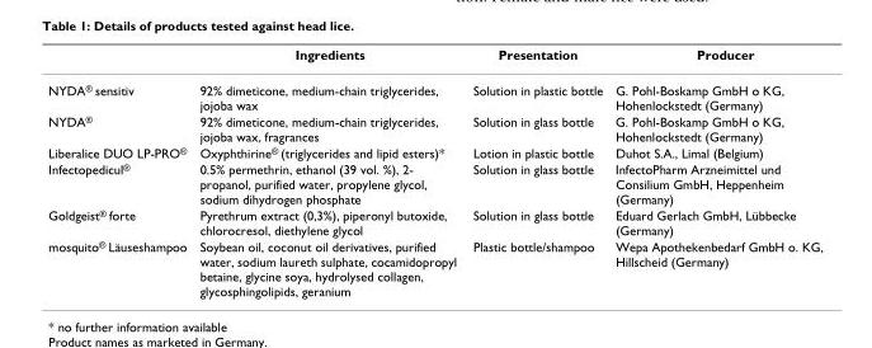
<table><thead><tr><td></td><td>Ingredients</td><td>Presentation</td><td>Producer</td></tr></thead><tbody><tr><td>NYDA<sup>®</sup> sensitiv</td><td>92% dimeticone, medium-chain triglycerides, jojoba wax</td><td>Solution in plastic bottle</td><td>G. Pohl-Boskamp GmbH o KG, Hohenlockstedt (Germany)</td></tr><tr><td>NYDA<sup>®</sup></td><td>92% dimeticone, medium-chain triglycerides, jojoba wax, fragrances</td><td>Solution in glass bottle</td><td>G. Pohl-Boskamp GmbH o KG, Hohenlockstedt (Germany)</td></tr><tr><td>Liberalice DUO LP-PRO<sup>®</sup></td><td>Oxyphthirine<sup>®</sup> (triglycerides and lipid esters)*</td><td>Lotion in plastic bottle</td><td>Duhot S.A., Limal (Belgium)</td></tr><tr><td>Infectopedicul<sup>®</sup></td><td>0.5% permethrin, ethanol (39 vol. %), 2- propanol, purified water, propylene glycol, sodium dihydrogen phosphate</td><td>Solution in glass bottle</td><td>InfectoPharm Arzneimittel und Consilium GmbH, Heppenheim (Germany)</td></tr><tr><td>Goldgeist<sup>®</sup> forte</td><td>Pyrethrum extract (0,3%), piperonyl butoxide, chlorocresol, diethylene glycol</td><td>Solution in glass bottle</td><td>Eduard Gerlach GmbH, Lübbecke (Germany)</td></tr><tr><td>mosquito<sup>®</sup> Läuseshampoo</td><td>Soybean oil, coconut oil derivatives, purified water, sodium laureth sulphate, cocamidopropyl betaine, glycine soya, hydrolysed collagen, glycosphingolipids, geranium</td><td>Plastic bottle/shampoo</td><td>Wepa Apothekenbedarf GmbH o. KG, Hillscheid (Germany)</td></tr></tbody></table>